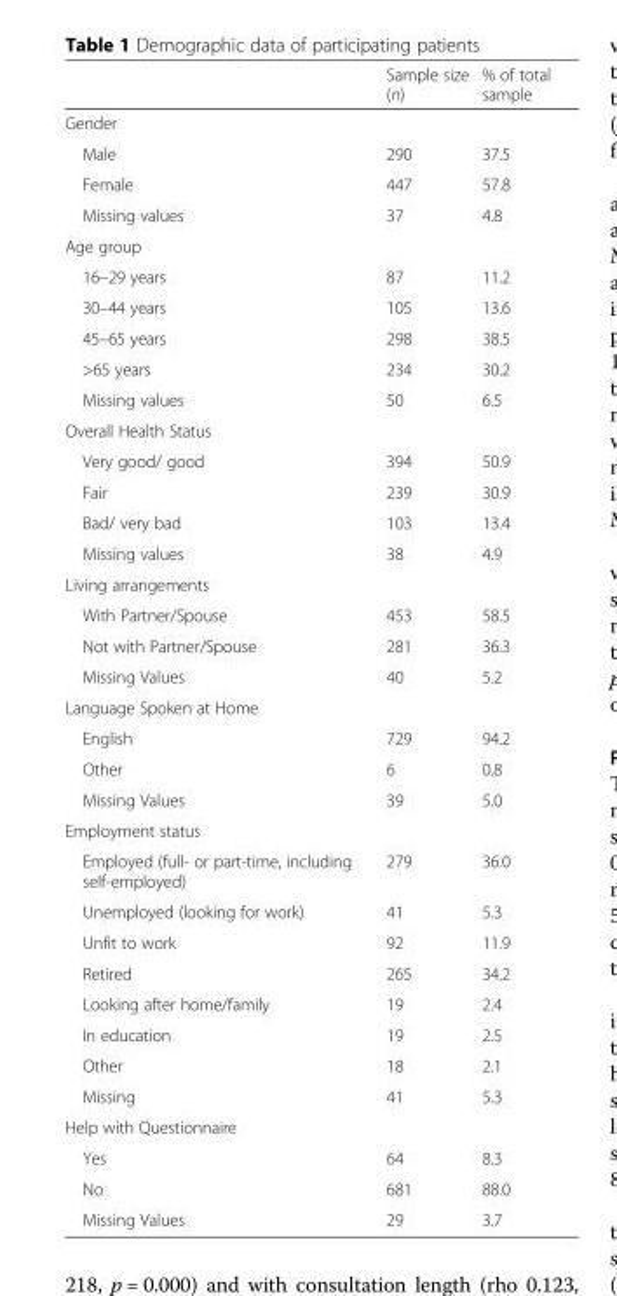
<table><thead><tr><td></td><td>Sample size (n)</td><td>% of total sample</td></tr></thead><tbody><tr><td colspan="3">Gender</td></tr><tr><td>Male</td><td>290</td><td>37.5</td></tr><tr><td>Female</td><td>447</td><td>57.8</td></tr><tr><td>Missing values</td><td>37</td><td>4.8</td></tr><tr><td colspan="3">Age group</td></tr><tr><td>16–29 years</td><td>87</td><td>11.2</td></tr><tr><td>30–44 years</td><td>105</td><td>13.6</td></tr><tr><td>45–65 years</td><td>298</td><td>38.5</td></tr><tr><td>&gt;65 years</td><td>234</td><td>30.2</td></tr><tr><td>Missing values</td><td>50</td><td>6.5</td></tr><tr><td colspan="3">Overall Health Status</td></tr><tr><td>Very good/ good</td><td>394</td><td>50.9</td></tr><tr><td>Fair</td><td>239</td><td>30.9</td></tr><tr><td>Bad/ very bad</td><td>103</td><td>13.4</td></tr><tr><td>Missing values</td><td>38</td><td>4.9</td></tr><tr><td colspan="3">Living arrangements</td></tr><tr><td>With Partner/Spouse</td><td>453</td><td>58.5</td></tr><tr><td>Not with Partner/Spouse</td><td>281</td><td>36.3</td></tr><tr><td>Missing Values</td><td>40</td><td>5.2</td></tr><tr><td colspan="3">Language Spoken at Home</td></tr><tr><td>English</td><td>729</td><td>94.2</td></tr><tr><td>Other</td><td>6</td><td>0.8</td></tr><tr><td>Missing Values</td><td>39</td><td>5.0</td></tr><tr><td colspan="3">Employment status</td></tr><tr><td>Employed (full- or part-time, including self-employed)</td><td>279</td><td>36.0</td></tr><tr><td>Unemployed (looking for work)</td><td>41</td><td>5.3</td></tr><tr><td>Unfit to work</td><td>92</td><td>11.9</td></tr><tr><td>Retired</td><td>265</td><td>34.2</td></tr><tr><td>Looking after home/family</td><td>19</td><td>2.4</td></tr><tr><td>In education</td><td>19</td><td>2.5</td></tr><tr><td>Other</td><td>18</td><td>2.1</td></tr><tr><td>Missing</td><td>41</td><td>5.3</td></tr><tr><td colspan="3">Help with Questionnaire</td></tr><tr><td>Yes</td><td>64</td><td>8.3</td></tr><tr><td>No</td><td>681</td><td>88.0</td></tr><tr><td>Missing Values</td><td>29</td><td>3.7</td></tr></tbody></table>